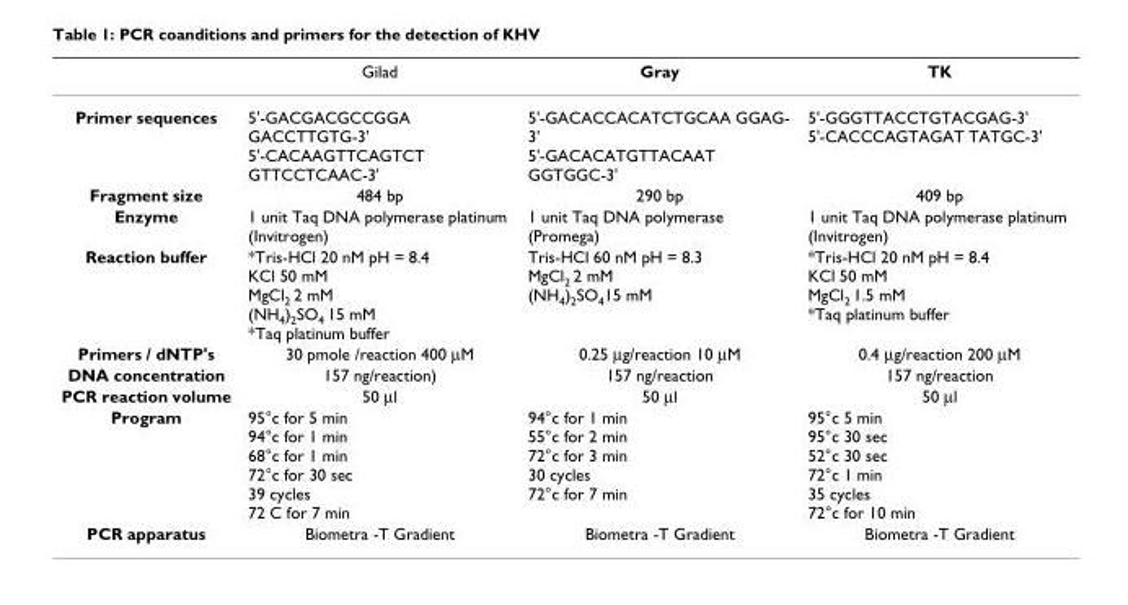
<table><thead><tr><td></td><td>Gilad</td><td>Gray</td><td>TK</td></tr></thead><tbody><tr><td>Primer sequences</td><td>5&#x27;-GACGACGCCGGA GACCTTGTG-3&#x27; 5&#x27;-CACAAGTTCAGTCT GTTCCTCAAC-3&#x27;</td><td>5&#x27;-GACACCACATCTGCAA GGAG- 3&#x27; 5&#x27;-GACACATGTTACAAT GGTGGC-3&#x27;</td><td>5&#x27;-GGGTTACCTGTACGAG-3&#x27; 5&#x27;-CACCCAGTAGAT TATGC-3&#x27;</td></tr><tr><td>Fragment size</td><td>484 bp</td><td>290 bp</td><td>409 bp</td></tr><tr><td>Enzyme</td><td>1 unit Taq DNA polymerase platinum (Invitrogen)</td><td>1 unit Taq DNA polymerase (Promega)</td><td>1 unit Taq DNA polymerase platinum (Invitrogen)</td></tr><tr><td>Reaction buffer</td><td>*Tris-HCl 20 nM pH = 8.4 KCl 50 mM MgCl2 2 mM (NH4)2SO4 15 mM *Taq platinum buffer</td><td>Tris-HCl 60 nM pH = 8.3 MgCl2 2 mM (NH4)2SO415 mM</td><td>*Tris-HCl 20 nM pH = 8.4 KCl 50 mM MgCl2 1.5 mM *Taq platinum buffer</td></tr><tr><td>Primers / dNTP&#x27;s</td><td>30 pmole /reaction 400 µM</td><td>0.25 µg/reaction 10 µM</td><td>0.4 µg/reaction 200 µM</td></tr><tr><td>DNA concentration</td><td>157 ng/reaction)</td><td>157 ng/reaction</td><td>157 ng/reaction</td></tr><tr><td>PCR reaction volume</td><td>50 µl</td><td>50 µl</td><td>50 µl</td></tr><tr><td>Program</td><td>95°c for 5 min 94°c for 1 min 68°c for 1 min 72°c for 30 sec 39 cycles 72 C for 7 min</td><td>94°c for 1 min 55°c for 2 min 72°c for 3 min 30 cycles 72°c for 7 min</td><td>95°c 5 min 95°c 30 sec 52°c 30 sec 72°c 1 min 35 cycles 72°c for 10 min</td></tr><tr><td>PCR apparatus</td><td>Biometra -T Gradient</td><td>Biometra -T Gradient</td><td>Biometra -T Gradient</td></tr></tbody></table>